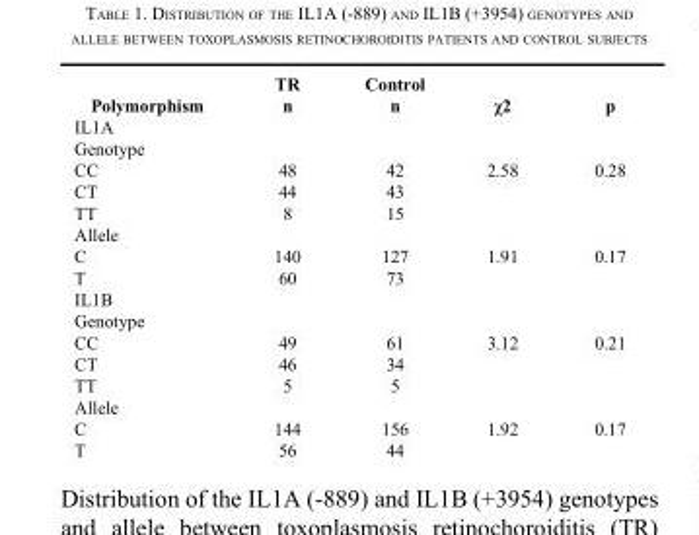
<table><thead><tr><td>Polymorphism</td><td>TR n</td><td>Control n</td><td>χ<sup>2</sup></td><td>p</td></tr></thead><tbody><tr><td colspan="5">IL1A</td></tr><tr><td colspan="5">Genotype</td></tr><tr><td>CC</td><td>48</td><td>42</td><td>2.58</td><td>0.28</td></tr><tr><td>CT</td><td>44</td><td>43</td><td></td><td></td></tr><tr><td>TT</td><td>8</td><td>15</td><td></td><td></td></tr><tr><td colspan="5">Allele</td></tr><tr><td>C</td><td>140</td><td>127</td><td>1.91</td><td>0.17</td></tr><tr><td>T</td><td>60</td><td>73</td><td></td><td></td></tr><tr><td colspan="5">IL1B</td></tr><tr><td colspan="5">Genotype</td></tr><tr><td>CC</td><td>49</td><td>61</td><td>3.12</td><td>0.21</td></tr><tr><td>CT</td><td>46</td><td>34</td><td></td><td></td></tr><tr><td>TT</td><td>5</td><td>5</td><td></td><td></td></tr><tr><td colspan="5">Allele</td></tr><tr><td>C</td><td>144</td><td>156</td><td>1.92</td><td>0.17</td></tr><tr><td>T</td><td>56</td><td>44</td><td></td><td></td></tr></tbody></table>